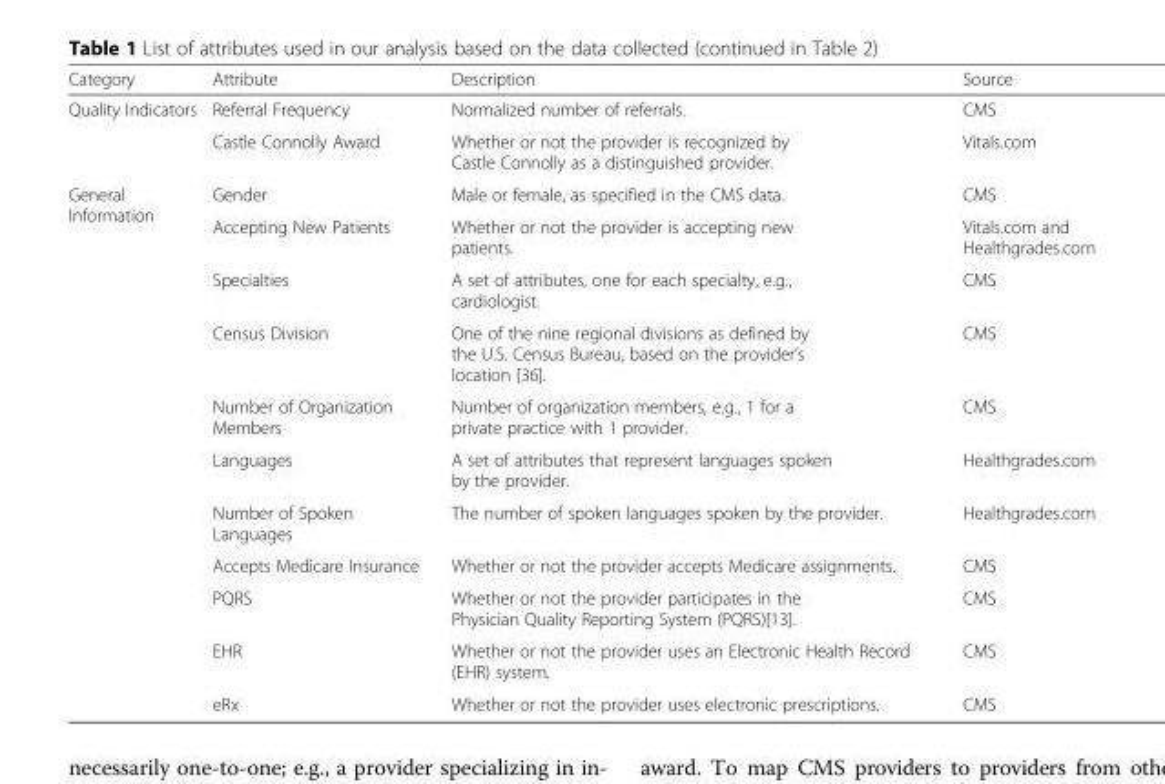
<table><thead><tr><td>Category</td><td>Attribute</td><td>Description</td><td>Source</td></tr></thead><tbody><tr><td rowspan="2">Quality Indicators</td><td>Referral Frequency</td><td>Normalized number of referrals.</td><td>CMS</td></tr><tr><td>Castle Connolly Award</td><td>Whether or not the provider is recognized by Castle Connolly as a distinguished provider.</td><td>Vitals.com</td></tr><tr><td rowspan="11">General Information</td><td>Gender</td><td>Male or female, as specified in the CMS data.</td><td>CMS</td></tr><tr><td>Accepting New Patients</td><td>Whether or not the provider is accepting new patients.</td><td>Vitals.com and Healthgrades.com</td></tr><tr><td>Specialties</td><td>A set of attributes, one for each specialty, e.g., cardiologist.</td><td>CMS</td></tr><tr><td>Census Division</td><td>One of the nine regional divisions as defined by the U.S. Census Bureau, based on the provider’s location [36].</td><td>CMS</td></tr><tr><td>Number of Organization Members</td><td>Number of organization members, e.g., 1 for a private practice with 1 provider.</td><td>CMS</td></tr><tr><td>Languages</td><td>A set of attributes that represent languages spoken by the provider.</td><td>Healthgrades.com</td></tr><tr><td>Number of Spoken Languages</td><td>The number of spoken languages spoken by the provider.</td><td>Healthgrades.com</td></tr><tr><td>Accepts Medicare Insurance</td><td>Whether or not the provider accepts Medicare assignments.</td><td>CMS</td></tr><tr><td>PQRS</td><td>Whether or not the provider participates in the Physician Quality Reporting System (PQRS)[13].</td><td>CMS</td></tr><tr><td>EHR</td><td>Whether or not the provider uses an Electronic Health Record (EHR) system.</td><td>CMS</td></tr><tr><td>eRx</td><td>Whether or not the provider uses electronic prescriptions.</td><td>CMS</td></tr></tbody></table>